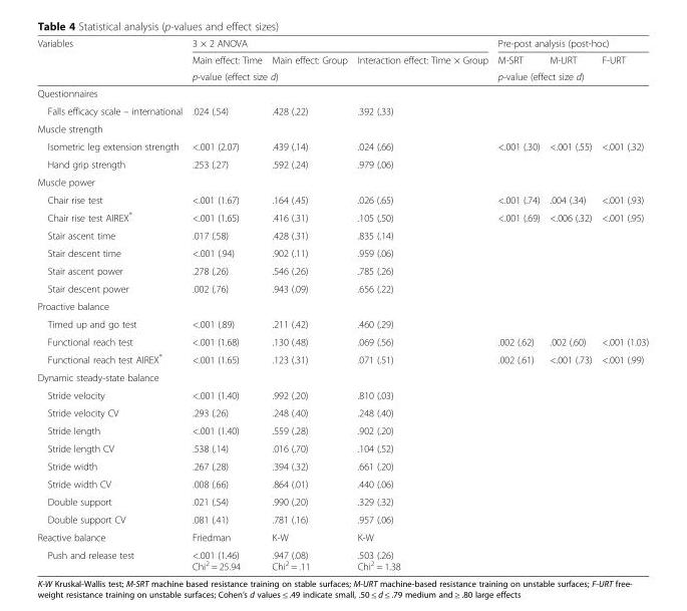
<table><thead><tr><td rowspan="3">Variables</td><td colspan="3">3 × 2 ANOVA</td><td colspan="3">Pre-post analysis (post-hoc)</td></tr><tr><td>Main effect: Time</td><td>Main effect: Group</td><td>Interaction effect: Time × Group</td><td>M-SRT</td><td>M-URT</td><td>F-URT</td></tr><tr><td colspan="3">p-value (effect size d)</td><td colspan="3">p-value (effect size d)</td></tr></thead><tbody><tr><td colspan="7">Questionnaires</td></tr><tr><td>Falls efficacy scale – international</td><td>.024 (.54)</td><td>.428 (.22)</td><td>.392 (.33)</td><td></td><td></td><td></td></tr><tr><td colspan="7">Muscle strength</td></tr><tr><td>Isometric leg extension strength</td><td>&lt;.001 (2.07)</td><td>.439 (.14)</td><td>.024 (.66)</td><td>&lt;.001 (.30)</td><td>&lt;.001 (.55)</td><td>&lt;.001 (.32)</td></tr><tr><td>Hand grip strength</td><td>.253 (.27)</td><td>.592 (.24)</td><td>.979 (.06)</td><td></td><td></td><td></td></tr><tr><td colspan="7">Muscle power</td></tr><tr><td>Chair rise test</td><td>&lt;.001 (1.67)</td><td>.164 (.45)</td><td>.026 (.65)</td><td>&lt;.001 (.74)</td><td>.004 (.34)</td><td>&lt;.001 (.93)</td></tr><tr><td>Chair rise test AIREX<sup>®</sup></td><td>&lt;.001 (1.65)</td><td>.416 (.31)</td><td>.105 (.50)</td><td>&lt;.001 (.69)</td><td>&lt;.006 (.32)</td><td>&lt;.001 (.95)</td></tr><tr><td>Stair ascent time</td><td>.017 (.58)</td><td>.428 (.31)</td><td>.835 (.14)</td><td></td><td></td><td></td></tr><tr><td>Stair descent time</td><td>&lt;.001 (.94)</td><td>.902 (.11)</td><td>.959 (.06)</td><td></td><td></td><td></td></tr><tr><td>Stair ascent power</td><td>.278 (.26)</td><td>.546 (.26)</td><td>.785 (.26)</td><td></td><td></td><td></td></tr><tr><td>Stair descent power</td><td>.002 (.76)</td><td>.943 (.09)</td><td>.656 (.22)</td><td></td><td></td><td></td></tr><tr><td colspan="7">Proactive balance</td></tr><tr><td>Timed up and go test</td><td>&lt;.001 (.89)</td><td>.211 (.42)</td><td>.460 (.29)</td><td></td><td></td><td></td></tr><tr><td>Functional reach test</td><td>&lt;.001 (1.68)</td><td>.130 (.48)</td><td>.069 (.56)</td><td>.002 (.62)</td><td>.002 (.60)</td><td>&lt;.001 (1.03)</td></tr><tr><td>Functional reach test AIREX<sup>®</sup></td><td>&lt;.001 (1.65)</td><td>.123 (.31)</td><td>.071 (.51)</td><td>.002 (.61)</td><td>&lt;.001 (.73)</td><td>&lt;.001 (.99)</td></tr><tr><td colspan="7">Dynamic steady-state balance</td></tr><tr><td>Stride velocity</td><td>&lt;.001 (1.40)</td><td>.992 (.20)</td><td>.810 (.03)</td><td></td><td></td><td></td></tr><tr><td>Stride velocity CV</td><td>.293 (.26)</td><td>.248 (.40)</td><td>.248 (.40)</td><td></td><td></td><td></td></tr><tr><td>Stride length</td><td>&lt;.001 (1.40)</td><td>.559 (.28)</td><td>.902 (.20)</td><td></td><td></td><td></td></tr><tr><td>Stride length CV</td><td>.538 (.14)</td><td>.016 (.70)</td><td>.104 (.52)</td><td></td><td></td><td></td></tr><tr><td>Stride width</td><td>.267 (.28)</td><td>.394 (.32)</td><td>.661 (.20)</td><td></td><td></td><td></td></tr><tr><td>Stride width CV</td><td>.008 (.66)</td><td>.864 (.01)</td><td>.440 (.06)</td><td></td><td></td><td></td></tr><tr><td>Double support</td><td>.021 (.54)</td><td>.990 (.20)</td><td>.329 (.32)</td><td></td><td></td><td></td></tr><tr><td>Double support CV</td><td>.081 (.41)</td><td>.781 (.16)</td><td>.957 (.06)</td><td></td><td></td><td></td></tr><tr><td>Reactive balance</td><td>Friedman</td><td>K-W</td><td>K-W</td><td></td><td></td><td></td></tr><tr><td>Push and release test</td><td>&lt;.001 (1.46) Chi<sup>2</sup> = 25.94</td><td>.947 (.08) Chi<sup>2</sup> = .11</td><td>.503 (.26) Chi<sup>2</sup> = 1.38</td><td></td><td></td><td></td></tr></tbody></table>